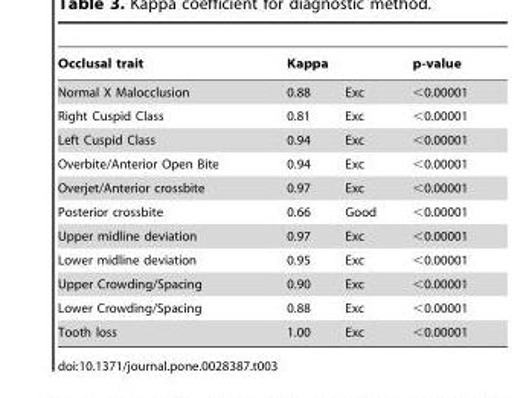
<table><thead><tr><td rowspan="2">Occlusal trait Normal X Malocclusion</td><td colspan="2">Kappa</td><td rowspan="2">p-value &lt;0.00001</td></tr><tr><td>0.88</td><td>Exc</td></tr></thead><tbody><tr><td>Right Cuspid Class</td><td>0.81</td><td>Exc</td><td>&lt;0.00001</td></tr><tr><td>Left Cuspid Class</td><td>0.94</td><td>Exc</td><td>&lt;0.00001</td></tr><tr><td>Overbite/Anterior Open Bite</td><td>0.94</td><td>Exc</td><td>&lt;0.00001</td></tr><tr><td>Overjet/Anterior crossbite</td><td>0.97</td><td>Exc</td><td>&lt;0.00001</td></tr><tr><td>Posterior crossbite</td><td>0.66</td><td>Good</td><td>&lt;0.00001</td></tr><tr><td>Upper midline deviation</td><td>0.97</td><td>Exc</td><td>&lt;0.00001</td></tr><tr><td>Lower midline deviation</td><td>0.95</td><td>Exc</td><td>&lt;0.00001</td></tr><tr><td>Upper Crowding/Spacing</td><td>0.90</td><td>Exc</td><td>&lt;0.00001</td></tr><tr><td>Lower Crowding/Spacing</td><td>0.88</td><td>Exc</td><td>&lt;0.00001</td></tr><tr><td>Tooth loss</td><td>1.00</td><td>Exc</td><td>&lt;0.00001</td></tr></tbody></table>